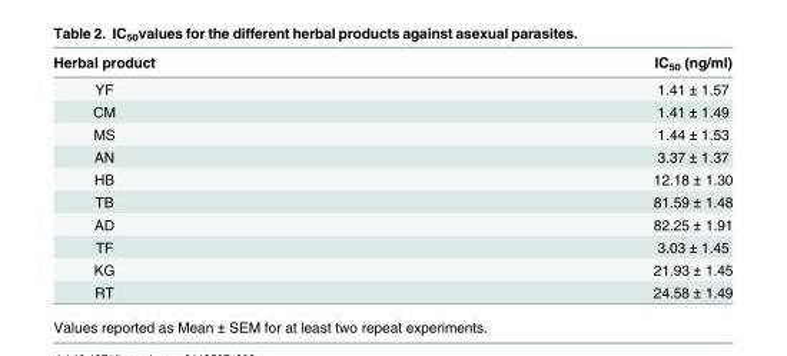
<table><thead><tr><td>Herbal product</td><td>IC<sub>50</sub> (ng/ml)</td></tr></thead><tbody><tr><td>YF</td><td>1.41 ± 1.57</td></tr><tr><td>CM</td><td>1.41 ± 1.49</td></tr><tr><td>MS</td><td>1.44 ± 1.53</td></tr><tr><td>AN</td><td>3.37 ± 1.37</td></tr><tr><td>HB</td><td>12.18 ± 1.30</td></tr><tr><td>TB</td><td>81.59 ± 1.48</td></tr><tr><td>AD</td><td>82.25 ± 1.91</td></tr><tr><td>TF</td><td>3.03 ± 1.45</td></tr><tr><td>KG</td><td>21.93 ± 1.45</td></tr><tr><td>RT</td><td>24.58 ± 1.49</td></tr></tbody></table>